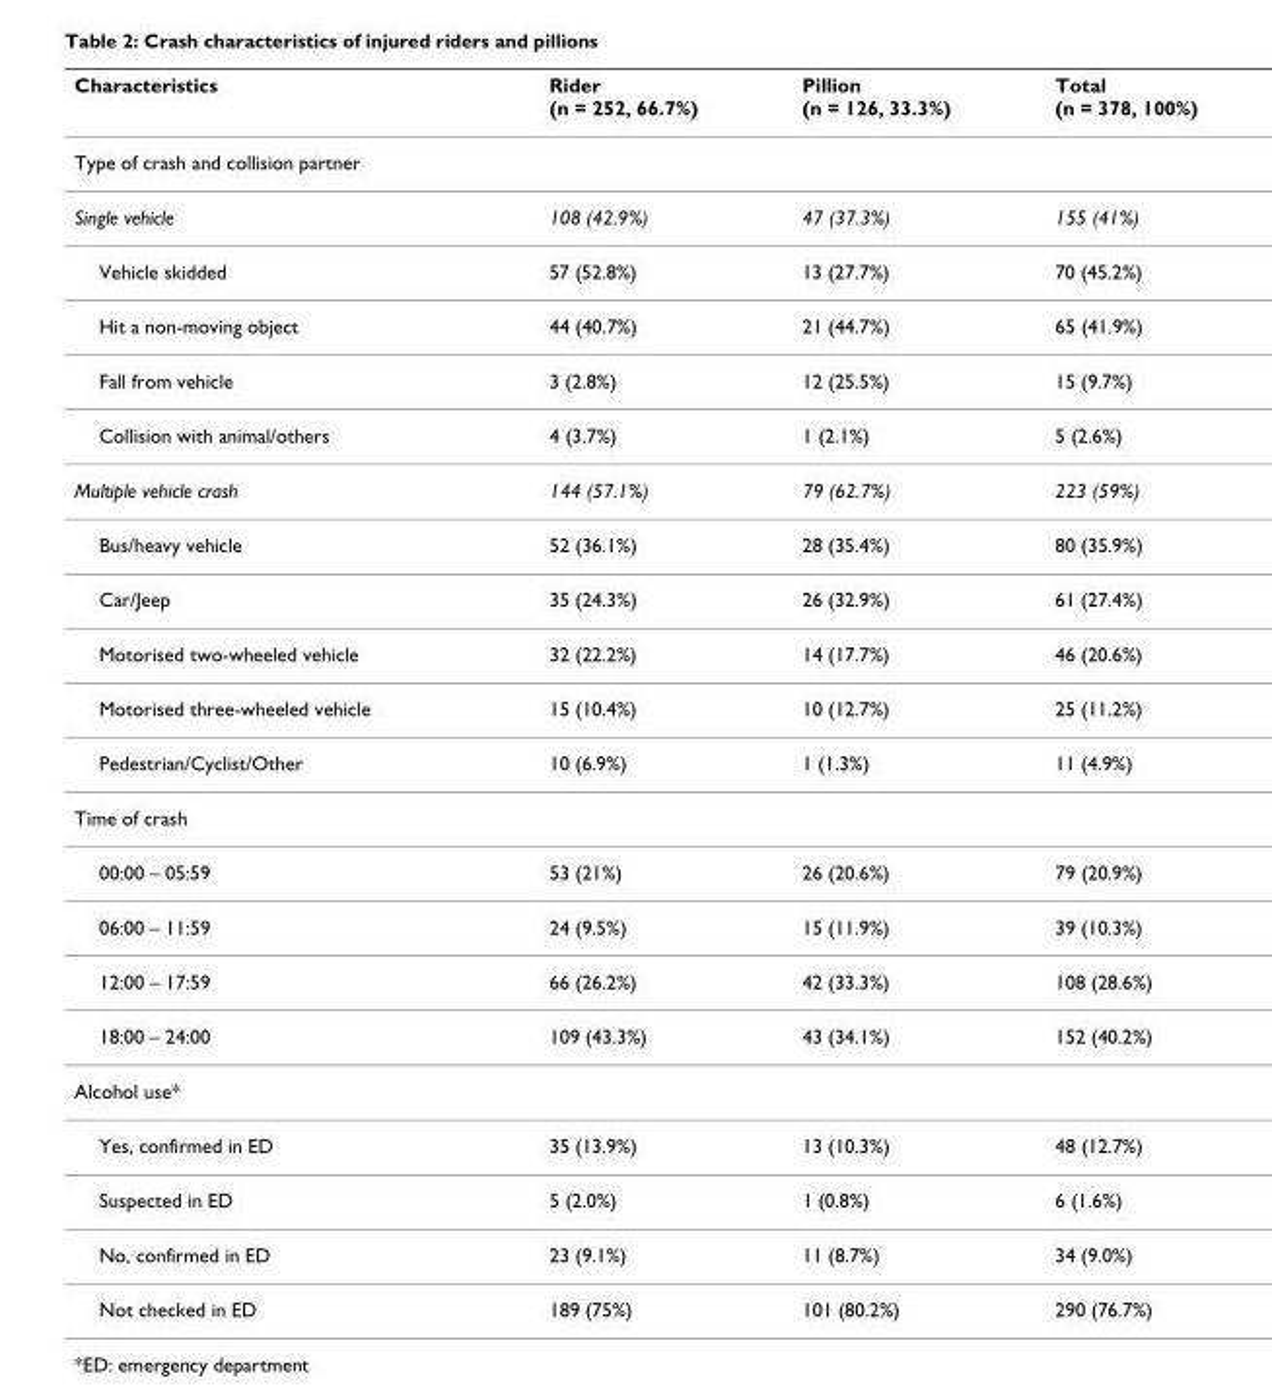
<table><thead><tr><td>Characteristics</td><td>Rider (n = 252, 66.7%)</td><td>Pillion (n = 126, 33.3%)</td><td>Total (n = 378, 100%)</td></tr></thead><tbody><tr><td colspan="4">Type of crash and collision partner</td></tr><tr><td>Single vehicle</td><td>108 (42.9%)</td><td>47 (37.3%)</td><td>155 (41%)</td></tr><tr><td>Vehicle skidded</td><td>57 (52.8%)</td><td>13 (27.7%)</td><td>70 (45.2%)</td></tr><tr><td>Hit a non-moving object</td><td>44 (40.7%)</td><td>21 (44.7%)</td><td>65 (41.9%)</td></tr><tr><td>Fall from vehicle</td><td>3 (2.8%)</td><td>12 (25.5%)</td><td>15 (9.7%)</td></tr><tr><td>Collision with animal/others</td><td>4 (3.7%)</td><td>1 (2.1%)</td><td>5 (2.6%)</td></tr><tr><td>Multiple vehicle crash</td><td>144 (57.1%)</td><td>79 (62.7%)</td><td>223 (59%)</td></tr><tr><td>Bus/heavy vehicle</td><td>52 (36.1%)</td><td>28 (35.4%)</td><td>80 (35.9%)</td></tr><tr><td>Car/Jeep</td><td>35 (24.3%)</td><td>26 (32.9%)</td><td>61 (27.4%)</td></tr><tr><td>Motorised two-wheeled vehicle</td><td>32 (22.2%)</td><td>14 (17.7%)</td><td>46 (20.6%)</td></tr><tr><td>Motorised three-wheeled vehicle</td><td>15 (10.4%)</td><td>10 (12.7%)</td><td>25 (11.2%)</td></tr><tr><td>Pedestrian/Cyclist/Other</td><td>10 (6.9%)</td><td>1 (1.3%)</td><td>11 (4.9%)</td></tr><tr><td colspan="4">Time of crash</td></tr><tr><td>00:00 – 05:59</td><td>53 (21%)</td><td>26 (20.6%)</td><td>79 (20.9%)</td></tr><tr><td>06:00 – 11:59</td><td>24 (9.5%)</td><td>15 (11.9%)</td><td>39 (10.3%)</td></tr><tr><td>12:00 – 17:59</td><td>66 (26.2%)</td><td>42 (33.3%)</td><td>108 (28.6%)</td></tr><tr><td>18:00 – 24:00</td><td>109 (43.3%)</td><td>43 (34.1%)</td><td>152 (40.2%)</td></tr><tr><td colspan="4">Alcohol use*</td></tr><tr><td>Yes, confirmed in ED</td><td>35 (13.9%)</td><td>13 (10.3%)</td><td>48 (12.7%)</td></tr><tr><td>Suspected in ED</td><td>5 (2.0%)</td><td>1 (0.8%)</td><td>6 (1.6%)</td></tr><tr><td>No, confirmed in ED</td><td>23 (9.1%)</td><td>11 (8.7%)</td><td>34 (9.0%)</td></tr><tr><td>Not checked in ED</td><td>189 (75%)</td><td>101 (80.2%)</td><td>290 (76.7%)</td></tr></tbody></table>